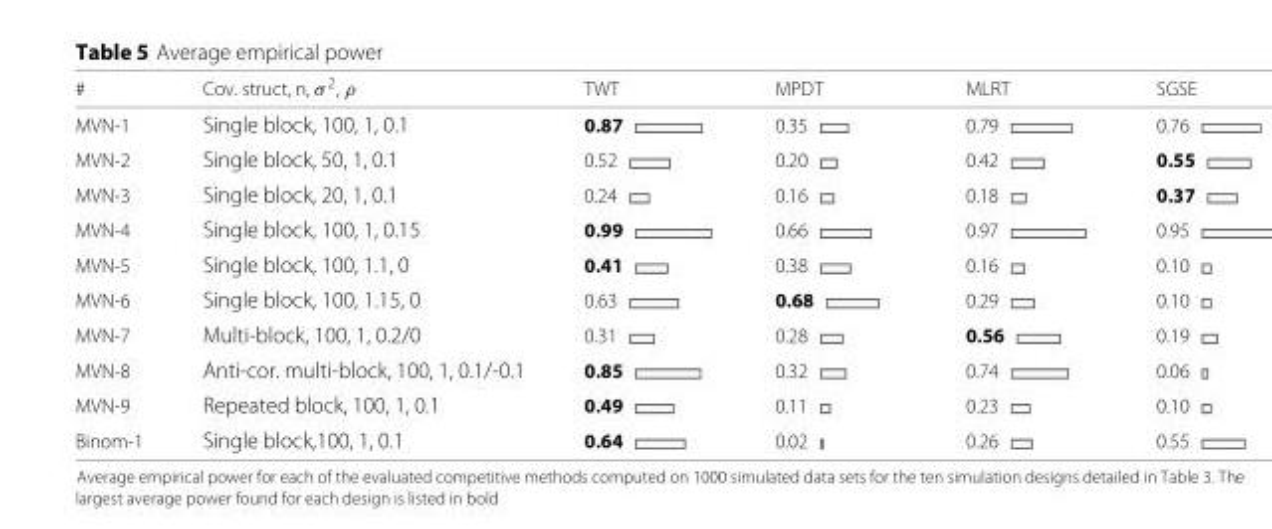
<table><thead><tr><td>#</td><td>Cov. struct, n, σ <sup>2</sup>, ρ</td><td>TWT</td><td>MPDT</td><td>MLRT</td><td>SGSE</td></tr></thead><tbody><tr><td>MVN-1</td><td>Single block, 100, 1, 0.1</td><td>0.87</td><td>0.35</td><td>0.79</td><td>0.76</td></tr><tr><td>MVN-2</td><td>Single block, 50, 1, 0.1</td><td>0.52</td><td>0.20</td><td>0.42</td><td>0.55</td></tr><tr><td>MVN-3</td><td>Single block, 20, 1, 0.1</td><td>0.24</td><td>0.16</td><td>0.18</td><td>0.37</td></tr><tr><td>MVN-4</td><td>Single block, 100, 1, 0.15</td><td>0.99</td><td>0.66</td><td>0.97</td><td>0.95</td></tr><tr><td>MVN-5</td><td>Single block, 100, 1.1, 0</td><td>0.41</td><td>0.38</td><td>0.16</td><td>0.10</td></tr><tr><td>MVN-6</td><td>Single block, 100, 1.15, 0</td><td>0.63</td><td>0.68</td><td>0.29</td><td>0.10</td></tr><tr><td>MVN-7</td><td>Multi-block, 100, 1, 0.2/0</td><td>0.31</td><td>0.28</td><td>0.56</td><td>0.19</td></tr><tr><td>MVN-8</td><td>Anti-cor. multi-block, 100, 1, 0.1/-0.1</td><td>0.85</td><td>0.32</td><td>0.74</td><td>0.06</td></tr><tr><td>MVN-9</td><td>Repeated block, 100, 1, 0.1</td><td>0.49</td><td>0.11</td><td>0.23</td><td>0.10</td></tr><tr><td>Binom-1</td><td>Single block,100, 1, 0.1</td><td>0.64</td><td>0.02</td><td>0.26</td><td>0.55</td></tr></tbody></table>